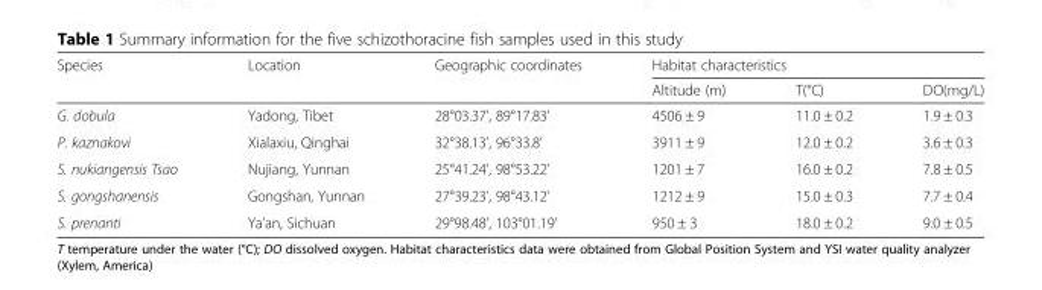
<table><thead><tr><td rowspan="2">Species</td><td rowspan="2">Location</td><td rowspan="2">Geographic coordinates</td><td colspan="3">Habitat characteristics</td></tr><tr><td>Altitude (m)</td><td>T(°C)</td><td>DO(mg/L)</td></tr></thead><tbody><tr><td>G. dobula</td><td>Yadong, Tibet</td><td>28°03.37’, 89°17.83’</td><td>4506 ± 9</td><td>11.0 ± 0.2</td><td>1.9 ± 0.3</td></tr><tr><td>P. kaznakovi</td><td>Xialaxiu, Qinghai</td><td>32°38.13’, 96°33.8’</td><td>3911 ± 9</td><td>12.0 ± 0.2</td><td>3.6 ± 0.3</td></tr><tr><td>S. nukiangensis Tsao</td><td>Nujiang, Yunnan</td><td>25°41.24’, 98°53.22’</td><td>1201 ± 7</td><td>16.0 ± 0.2</td><td>7.8 ± 0.5</td></tr><tr><td>S. gongshanensis</td><td>Gongshan, Yunnan</td><td>27°39.23’, 98°43.12’</td><td>1212 ± 9</td><td>15.0 ± 0.3</td><td>7.7 ± 0.4</td></tr><tr><td>S. prenanti</td><td>Ya’an, Sichuan</td><td>29°98.48’, 103°01.19’</td><td>950 ± 3</td><td>18.0 ± 0.2</td><td>9.0 ± 0.5</td></tr></tbody></table>